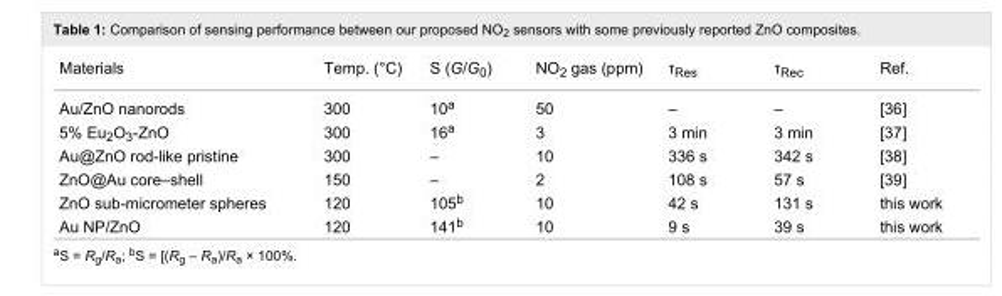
<table><tbody><tr><td>Materials</td><td>Temp. (°C)</td><td>S (G/G<sub>0</sub>)</td><td>NO<sub>2</sub> gas (ppm)</td><td>τ<sub>Res</sub></td><td>τ<sub>Rec</sub></td><td>Ref.</td></tr><tr><td>Au/ZnO nanorods</td><td>300</td><td>10<sup>a</sup></td><td>50</td><td>–</td><td>–</td><td>[36]</td></tr><tr><td>5% Eu<sub>2</sub>O<sub>3</sub>-ZnO</td><td>300</td><td>16<sup>a</sup></td><td>3</td><td>3 min</td><td>3 min</td><td>[37]</td></tr><tr><td>Au@ZnO rod-like pristine</td><td>300</td><td>–</td><td>10</td><td>336 s</td><td>342 s</td><td>[38]</td></tr><tr><td>ZnO@Au core–shell</td><td>150</td><td>–</td><td>2</td><td>108 s</td><td>57 s</td><td>[39]</td></tr><tr><td>ZnO sub-micrometer spheres</td><td>120</td><td>105<sup>b</sup></td><td>10</td><td>42 s</td><td>131 s</td><td>this work</td></tr><tr><td>Au NP/ZnO</td><td>120</td><td>141<sup>b</sup></td><td>10</td><td>9 s</td><td>39 s</td><td>this work</td></tr></tbody></table>